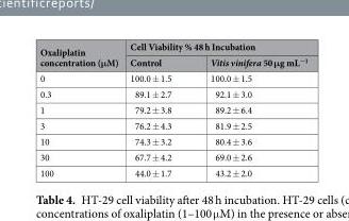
<table><thead><tr><td rowspan="2">Oxaliplatin concentration (μM)</td><td colspan="2">Cell Viability % 48 h Incubation</td></tr><tr><td>Control</td><td>Vitis vinifera 50 μg mL<sup>−1</sup></td></tr></thead><tbody><tr><td>0</td><td>100.0 ± 1.5</td><td>100.0 ± 1.5</td></tr><tr><td>0.3</td><td>89.1 ± 2.7</td><td>92.1 ± 3.0</td></tr><tr><td>1</td><td>79.2 ± 3.8</td><td>89.2 ± 6.4</td></tr><tr><td>3</td><td>76.2 ± 4.3</td><td>81.9 ± 2.5</td></tr><tr><td>10</td><td>74.3 ± 3.2</td><td>80.4 ± 3.6</td></tr><tr><td>30</td><td>67.7 ± 4.2</td><td>69.0 ± 2.6</td></tr><tr><td>100</td><td>44.0 ± 1.7</td><td>43.2 ± 2.0</td></tr></tbody></table>